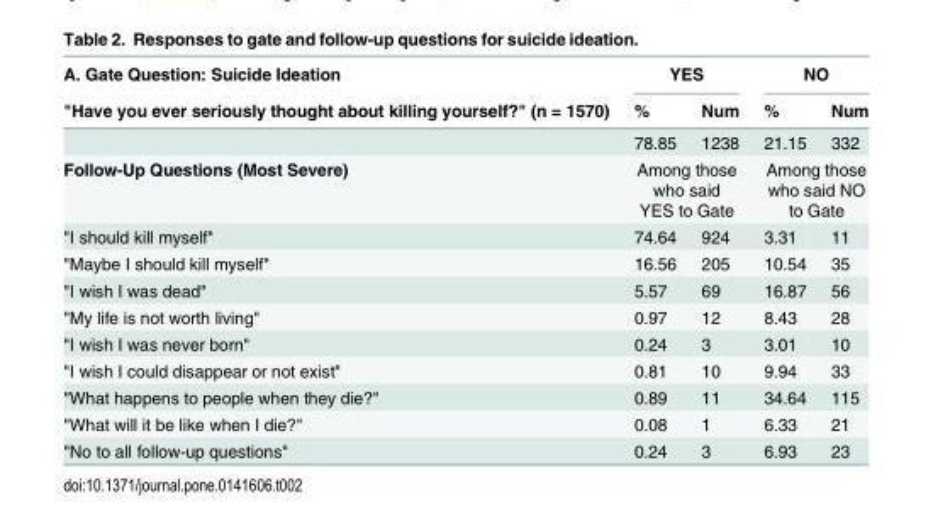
<table><thead><tr><td rowspan="2">A. Gate Question: Suicide Ideation &quot;Have you ever seriously thought about killing yourself?&quot; (n = 1570)</td><td colspan="2">YES</td><td colspan="2">NO</td></tr><tr><td>%</td><td>Num</td><td>%</td><td>Num</td></tr></thead><tbody><tr><td></td><td>78.85</td><td>1238</td><td>21.15</td><td>332</td></tr><tr><td>Follow-Up Questions (Most Severe)</td><td colspan="2">Among those who said YES to Gate</td><td colspan="2">Among those who said NO to Gate</td></tr><tr><td>&quot;I should kill myself&quot;</td><td>74.64</td><td>924</td><td>3.31</td><td>11</td></tr><tr><td>&quot;Maybe I should kill myself&quot;</td><td>16.56</td><td>205</td><td>10.54</td><td>35</td></tr><tr><td>&quot;I wish I was dead&quot;</td><td>5.57</td><td>69</td><td>16.87</td><td>56</td></tr><tr><td>&quot;My life is not worth living&quot;</td><td>0.97</td><td>12</td><td>8.43</td><td>28</td></tr><tr><td>&quot;I wish I was never born&quot;</td><td>0.24</td><td>3</td><td>3.01</td><td>10</td></tr><tr><td>&quot;I wish I could disappear or not exist&quot;</td><td>0.81</td><td>10</td><td>9.94</td><td>33</td></tr><tr><td>&quot;What happens to people when they die?&quot;</td><td>0.89</td><td>11</td><td>34.64</td><td>115</td></tr><tr><td>&quot;What will it be like when I die?&quot;</td><td>0.08</td><td>1</td><td>6.33</td><td>21</td></tr><tr><td>&quot;No to all follow-up questions&quot;</td><td>0.24</td><td>3</td><td>6.93</td><td>23</td></tr></tbody></table>